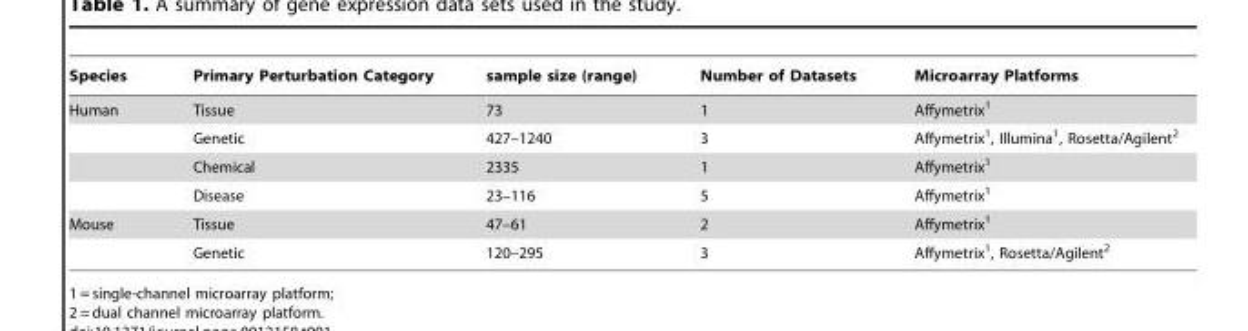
<table><thead><tr><td>Species</td><td>Primary Perturbation Category</td><td>sample size (range)</td><td>Number of Datasets</td><td>Microarray Platforms</td></tr></thead><tbody><tr><td rowspan="4">Human</td><td>Tissue</td><td>73</td><td>1</td><td>Affymetrix<sup>1</sup></td></tr><tr><td>Genetic</td><td>427–1240</td><td>3</td><td>Affymetrix<sup>1</sup>, Illumina<sup>1</sup>, Rosetta/Agilent<sup>2</sup></td></tr><tr><td>Chemical</td><td>2335</td><td>1</td><td>Affymetrix<sup>1</sup></td></tr><tr><td>Disease</td><td>23–116</td><td>5</td><td>Affymetrix<sup>1</sup></td></tr><tr><td rowspan="2">Mouse</td><td>Tissue</td><td>47–61</td><td>2</td><td>Affymetrix<sup>1</sup></td></tr><tr><td>Genetic</td><td>120–295</td><td>3</td><td>Affymetrix<sup>1</sup>, Rosetta/Agilent<sup>2</sup></td></tr></tbody></table>